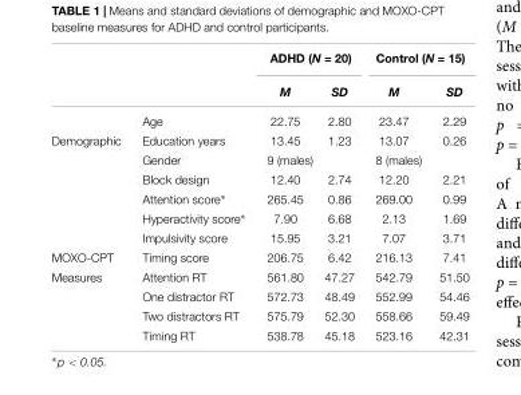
<table><thead><tr><td rowspan="2"></td><td rowspan="2"></td><td colspan="2">ADHD (N = 20)</td><td colspan="2">Control (N = 15)</td></tr><tr><td>M</td><td>SD</td><td>M</td><td>SD</td></tr></thead><tbody><tr><td></td><td>Age</td><td>22.75</td><td>2.80</td><td>23.47</td><td>2.29</td></tr><tr><td rowspan="6">Demographic</td><td>Education years</td><td>13.45</td><td>1.23</td><td>13.07</td><td>0.26</td></tr><tr><td>Gender</td><td colspan="2">9 (males)</td><td colspan="2">8 (males)</td></tr><tr><td>Block design</td><td>12.40</td><td>2.74</td><td>12.20</td><td>2.21</td></tr><tr><td>Attention score∗</td><td>265.45</td><td>0.86</td><td>269.00</td><td>0.99</td></tr><tr><td>Hyperactivity score∗</td><td>7.90</td><td>6.68</td><td>2.13</td><td>1.69</td></tr><tr><td>Impulsivity score</td><td>15.95</td><td>3.21</td><td>7.07</td><td>3.71</td></tr><tr><td>MOXO-CPT</td><td>Timing score</td><td>206.75</td><td>6.42</td><td>216.13</td><td>7.41</td></tr><tr><td rowspan="4">Measures</td><td>Attention RT</td><td>561.80</td><td>47.27</td><td>542.79</td><td>51.50</td></tr><tr><td>One distractor RT</td><td>572.73</td><td>48.49</td><td>552.99</td><td>54.46</td></tr><tr><td>Two distractors RT</td><td>575.79</td><td>52.30</td><td>558.66</td><td>59.49</td></tr><tr><td>Timing RT</td><td>538.78</td><td>45.18</td><td>523.16</td><td>42.31</td></tr></tbody></table>